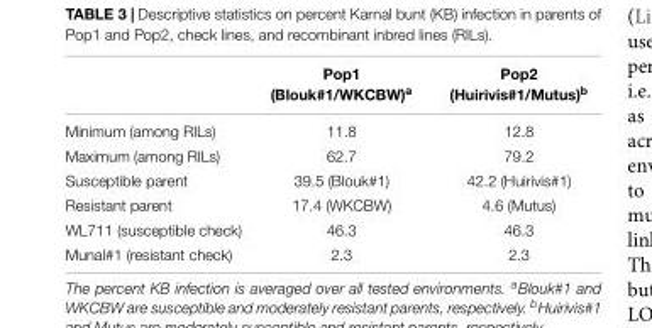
<table><thead><tr><td></td><td>Pop1 (Blouk#1/WKCBW)<sup>a</sup></td><td>Pop2 (Huirivis#1/Mutus)<sup>b</sup></td></tr></thead><tbody><tr><td>Minimum (among RILs)</td><td>11.8</td><td>12.8</td></tr><tr><td>Maximum (among RILs)</td><td>62.7</td><td>79.2</td></tr><tr><td>Susceptible parent</td><td>39.5 (Blouk#1)</td><td>42.2 (Huirivis#1)</td></tr><tr><td>Resistant parent</td><td>17.4 (WKCBW)</td><td>4.6 (Mutus)</td></tr><tr><td>WL711 (susceptible check)</td><td>46.3</td><td>46.3</td></tr><tr><td>Munal#1 (resistant check)</td><td>2.3</td><td>2.3</td></tr></tbody></table>